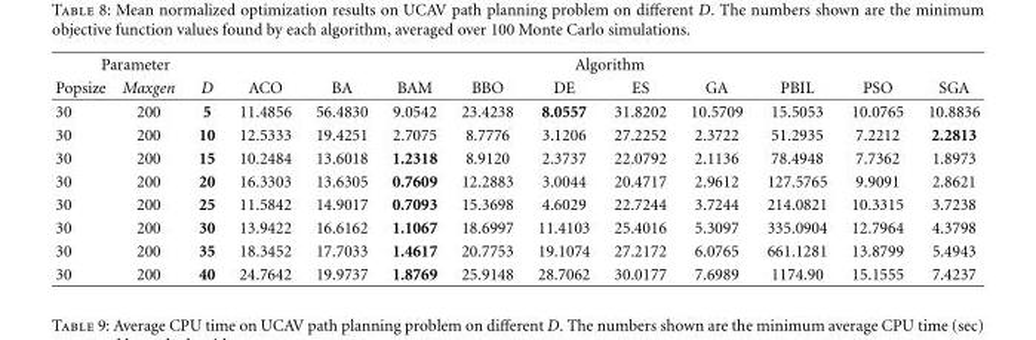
<table><thead><tr><td colspan="3">Parameter</td><td colspan="10">Algorithm</td></tr><tr><td>Popsize</td><td>Maxgen</td><td>D</td><td>ACO</td><td>BA</td><td>BAM</td><td>BBO</td><td>DE</td><td>ES</td><td>GA</td><td>PBIL</td><td>PSO</td><td>SGA</td></tr></thead><tbody><tr><td>30</td><td>200</td><td>5</td><td>11.4856</td><td>56.4830</td><td>9.0542</td><td>23.4238</td><td>8.0557</td><td>31.8202</td><td>10.5709</td><td>15.5053</td><td>10.0765</td><td>10.8836</td></tr><tr><td>30</td><td>200</td><td>10</td><td>12.5333</td><td>19.4251</td><td>2.7075</td><td>8.7776</td><td>3.1206</td><td>27.2252</td><td>2.3722</td><td>51.2935</td><td>7.2212</td><td>2.2813</td></tr><tr><td>30</td><td>200</td><td>15</td><td>10.2484</td><td>13.6018</td><td>1.2318</td><td>8.9120</td><td>2.3737</td><td>22.0792</td><td>2.1136</td><td>78.4948</td><td>7.7362</td><td>1.8973</td></tr><tr><td>30</td><td>200</td><td>20</td><td>16.3303</td><td>13.6305</td><td>0.7609</td><td>12.2883</td><td>3.0044</td><td>20.4717</td><td>2.9612</td><td>127.5765</td><td>9.9091</td><td>2.8621</td></tr><tr><td>30</td><td>200</td><td>25</td><td>11.5842</td><td>14.9017</td><td>0.7093</td><td>15.3698</td><td>4.6029</td><td>22.7244</td><td>3.7244</td><td>214.0821</td><td>10.3315</td><td>3.7238</td></tr><tr><td>30</td><td>200</td><td>30</td><td>13.9422</td><td>16.6162</td><td>1.1067</td><td>18.6997</td><td>11.4103</td><td>25.4016</td><td>5.3097</td><td>335.0904</td><td>12.7964</td><td>4.3798</td></tr><tr><td>30</td><td>200</td><td>35</td><td>18.3452</td><td>17.7033</td><td>1.4617</td><td>20.7753</td><td>19.1074</td><td>27.2172</td><td>6.0765</td><td>661.1281</td><td>13.8799</td><td>5.4943</td></tr><tr><td>30</td><td>200</td><td>40</td><td>24.7642</td><td>19.9737</td><td>1.8769</td><td>25.9148</td><td>28.7062</td><td>30.0177</td><td>7.6989</td><td>1174.90</td><td>15.1555</td><td>7.4237</td></tr></tbody></table>